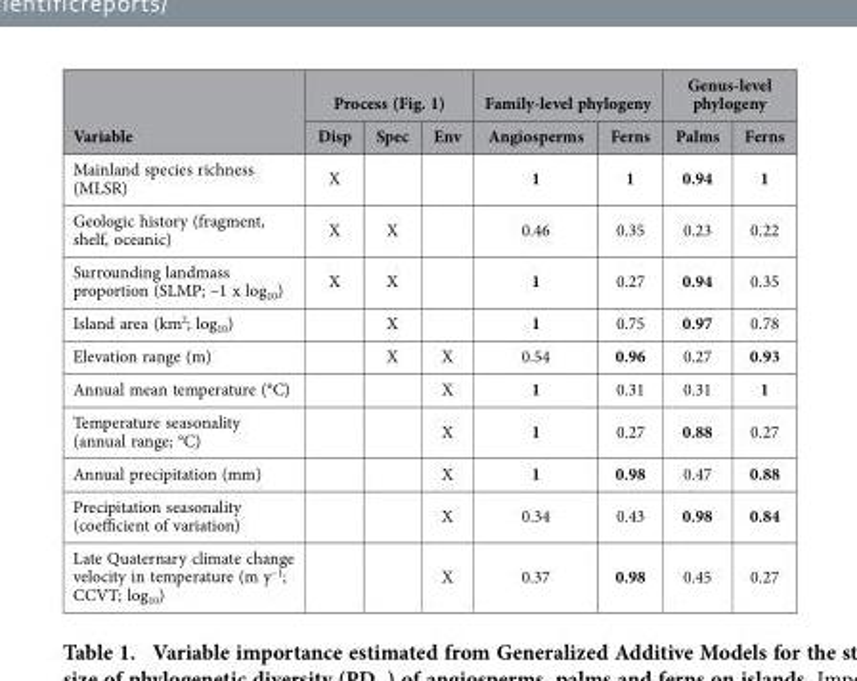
<table><thead><tr><td rowspan="2">Variable</td><td colspan="3">Process (Fig. 1)</td><td colspan="2">Family-level phylogeny</td><td colspan="2">Genus-level phylogeny</td></tr><tr><td>Disp</td><td>Spec</td><td>Env</td><td>Angiosperms</td><td>Ferns</td><td>Palms</td><td>Ferns</td></tr></thead><tbody><tr><td>Mainland species richness (MLSR)</td><td>X</td><td></td><td></td><td>1</td><td>1</td><td>0.94</td><td>1</td></tr><tr><td>Geologic history (fragment, shelf, oceanic)</td><td>X</td><td>X</td><td></td><td>0.46</td><td>0.35</td><td>0.23</td><td>0.22</td></tr><tr><td>Surrounding landmass proportion (SLMP; –1 x log<sub>10</sub>)</td><td>X</td><td>X</td><td></td><td>1</td><td>0.27</td><td>0.94</td><td>0.35</td></tr><tr><td>Island area (km<sup>2</sup>; log<sub>10</sub>)</td><td></td><td>X</td><td></td><td>1</td><td>0.75</td><td>0.97</td><td>0.78</td></tr><tr><td>Elevation range (m)</td><td></td><td>X</td><td>X</td><td>0.54</td><td>0.96</td><td>0.27</td><td>0.93</td></tr><tr><td>Annual mean temperature (°C)</td><td></td><td></td><td>X</td><td>1</td><td>0.31</td><td>0.31</td><td>1</td></tr><tr><td>Temperature seasonality (annual range; °C)</td><td></td><td></td><td>X</td><td>1</td><td>0.27</td><td>0.88</td><td>0.27</td></tr><tr><td>Annual precipitation (mm)</td><td></td><td></td><td>X</td><td>1</td><td>0.98</td><td>0.47</td><td>0.88</td></tr><tr><td>Precipitation seasonality (coefficient of variation)</td><td></td><td></td><td>X</td><td>0.34</td><td>0.43</td><td>0.98</td><td>0.84</td></tr><tr><td>Late Quaternary climate change velocity in temperature (m y<sup>–1</sup>; CCVT; log<sub>10</sub>)</td><td></td><td></td><td>X</td><td>0.37</td><td>0.98</td><td>0.45</td><td>0.27</td></tr></tbody></table>